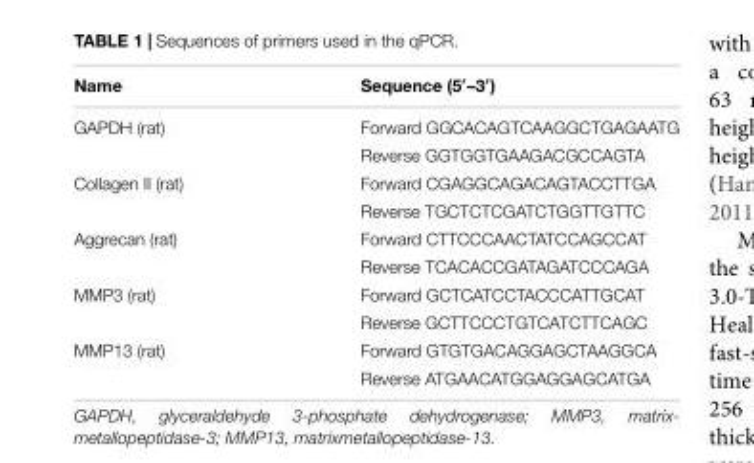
<table><thead><tr><td>Name</td><td>Sequence (5<sup>′</sup>–3<sup>′</sup>)</td></tr></thead><tbody><tr><td rowspan="2">GAPDH (rat)</td><td>Forward GGCACAGTCAAGGCTGAGAATG</td></tr><tr><td>Reverse GGTGGTGAAGACGCCAGTA</td></tr><tr><td rowspan="2">Collagen II (rat)</td><td>Forward CGAGGCAGACAGTACCTTGA</td></tr><tr><td>Reverse TGCTCTCGATCTGGTTGTTC</td></tr><tr><td rowspan="2">Aggrecan (rat)</td><td>Forward CTTCCCAACTATCCAGCCAT</td></tr><tr><td>Reverse TCACACCGATAGATCCCAGA</td></tr><tr><td rowspan="2">MMP3 (rat)</td><td>Forward GCTCATCCTACCCATTGCAT</td></tr><tr><td>Reverse GCTTCCCTGTCATCTTCAGC</td></tr><tr><td rowspan="2">MMP13 (rat)</td><td>Forward GTGTGACAGGAGCTAAGGCA</td></tr><tr><td>Reverse ATGAACATGGAGGAGCATGA</td></tr></tbody></table>